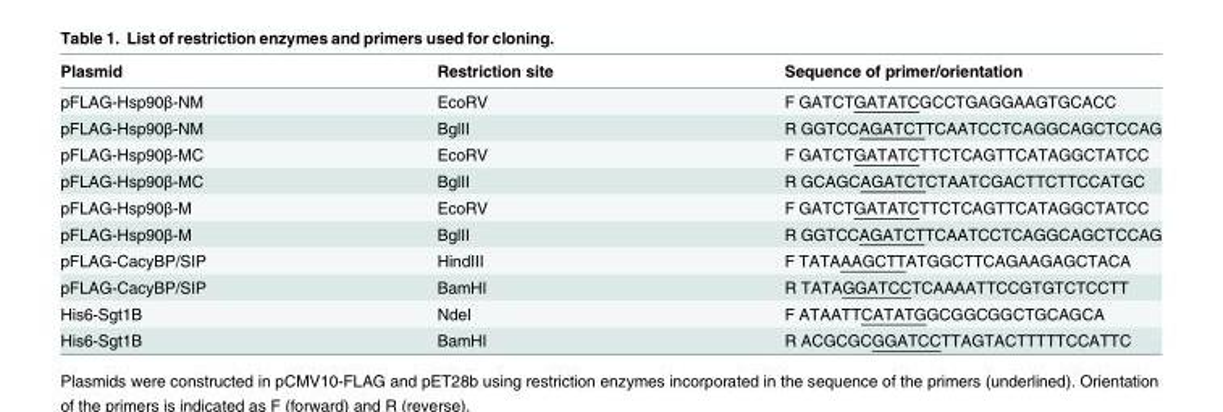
<table><thead><tr><td>Plasmid</td><td>Restriction site</td><td>Sequence of primer/orientation</td></tr></thead><tbody><tr><td>pFLAG-Hsp90β-NM</td><td>EcoRV</td><td>F GATCTGATATCGCCTGAGGAAGTGCACC</td></tr><tr><td>pFLAG-Hsp90β-NM</td><td>BglII</td><td>R GGTCCAGATCTTCAATCCTCAGGCAGCTCCAG</td></tr><tr><td>pFLAG-Hsp90β-MC</td><td>EcoRV</td><td>F GATCTGATATCTTCTCAGTTCATAGGCTATCC</td></tr><tr><td>pFLAG-Hsp90β-MC</td><td>BglII</td><td>R GCAGCAGATCTCTAATCGACTTCTTCCATGC</td></tr><tr><td>pFLAG-Hsp90β-M</td><td>EcoRV</td><td>F GATCTGATATCTTCTCAGTTCATAGGCTATCC</td></tr><tr><td>pFLAG-Hsp90β-M</td><td>BglII</td><td>R GGTCCAGATCTTCAATCCTCAGGCAGCTCCAG</td></tr><tr><td>pFLAG-CacyBP/SIP</td><td>HindIII</td><td>F TATAAAGCTTATGGCTTCAGAAGAGCTACA</td></tr><tr><td>pFLAG-CacyBP/SIP</td><td>BamHI</td><td>R TATAGGATCCTCAAAATTCCGTGTCTCCTT</td></tr><tr><td>His6-Sgt1B</td><td>NdeI</td><td>F ATAATTCATATGGCGGCGGCTGCAGCA</td></tr><tr><td>His6-Sgt1B</td><td>BamHI</td><td>R ACGCGCGGATCCTTAGTACTTTTTCCATTC</td></tr></tbody></table>